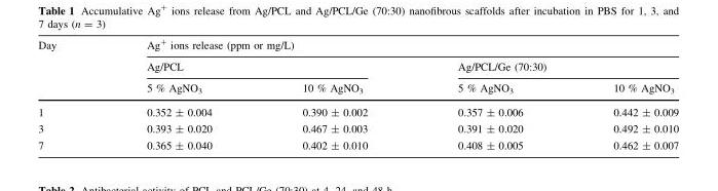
<table><thead><tr><td rowspan="3">Day</td><td colspan="4">Ag<sup>+</sup> ions release (ppm or mg/L)</td></tr><tr><td colspan="2">Ag/PCL</td><td colspan="2">Ag/PCL/Ge (70:30)</td></tr><tr><td>5 % AgNO<sub>3</sub></td><td>10 % AgNO<sub>3</sub></td><td>5 % AgNO<sub>3</sub></td><td>10 % AgNO<sub>3</sub></td></tr></thead><tbody><tr><td>1</td><td>0.352 ± 0.004</td><td>0.390 ± 0.002</td><td>0.357 ± 0.006</td><td>0.442 ± 0.009</td></tr><tr><td>3</td><td>0.393 ± 0.020</td><td>0.467 ± 0.003</td><td>0.391 ± 0.020</td><td>0.492 ± 0.010</td></tr><tr><td>7</td><td>0.365 ± 0.040</td><td>0.402 ± 0.010</td><td>0.408 ± 0.005</td><td>0.462 ± 0.007</td></tr></tbody></table>